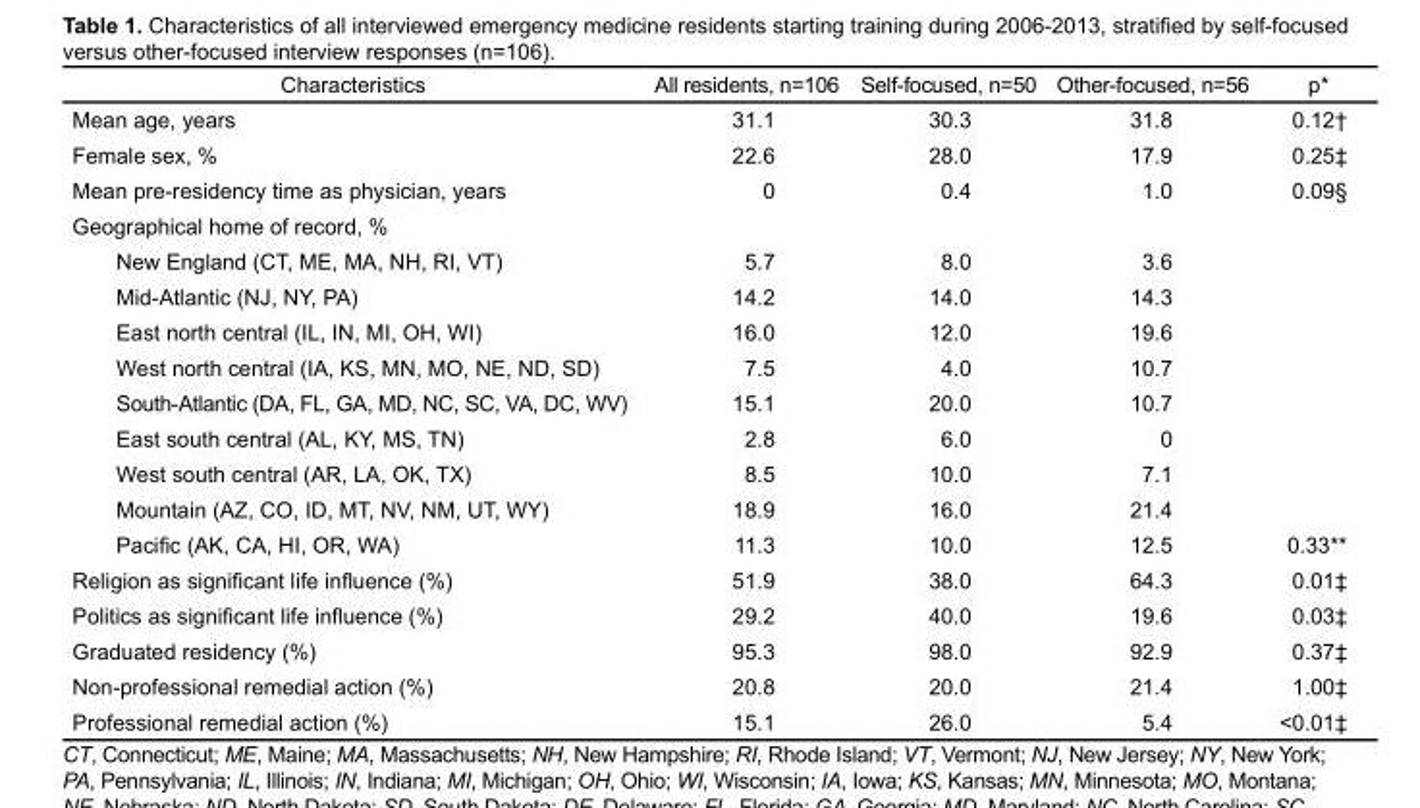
<table><thead><tr><td>Characteristics</td><td>All residents, n=106</td><td>Self-focused, n=50</td><td>Other-focused, n=56</td><td>p*</td></tr></thead><tbody><tr><td>Mean age, years</td><td>31.1</td><td>30.3</td><td>31.8</td><td>0.12†</td></tr><tr><td>Female sex, %</td><td>22.6</td><td>28.0</td><td>17.9</td><td>0.25‡</td></tr><tr><td>Mean pre-residency time as physician, years</td><td>0</td><td>0.4</td><td>1.0</td><td>0.09§</td></tr><tr><td colspan="5">Geographical home of record, %</td></tr><tr><td>New England (CT, ME, MA, NH, RI, VT)</td><td>5.7</td><td>8.0</td><td>3.6</td><td></td></tr><tr><td>Mid-Atlantic (NJ, NY, PA)</td><td>14.2</td><td>14.0</td><td>14.3</td><td></td></tr><tr><td>East north central (IL, IN, MI, OH, WI)</td><td>16.0</td><td>12.0</td><td>19.6</td><td></td></tr><tr><td>West north central (IA, KS, MN, MO, NE, ND, SD)</td><td>7.5</td><td>4.0</td><td>10.7</td><td></td></tr><tr><td>South-Atlantic (DA, FL, GA, MD, NC, SC, VA, DC, WV)</td><td>15.1</td><td>20.0</td><td>10.7</td><td></td></tr><tr><td>East south central (AL, KY, MS, TN)</td><td>2.8</td><td>6.0</td><td>0</td><td></td></tr><tr><td>West south central (AR, LA, OK, TX)</td><td>8.5</td><td>10.0</td><td>7.1</td><td></td></tr><tr><td>Mountain (AZ, CO, ID, MT, NV, NM, UT, WY)</td><td>18.9</td><td>16.0</td><td>21.4</td><td></td></tr><tr><td>Pacific (AK, CA, HI, OR, WA)</td><td>11.3</td><td>10.0</td><td>12.5</td><td>0.33**</td></tr><tr><td>Religion as significant life influence (%)</td><td>51.9</td><td>38.0</td><td>64.3</td><td>0.01‡</td></tr><tr><td>Politics as significant life influence (%)</td><td>29.2</td><td>40.0</td><td>19.6</td><td>0.03‡</td></tr><tr><td>Graduated residency (%)</td><td>95.3</td><td>98.0</td><td>92.9</td><td>0.37‡</td></tr><tr><td>Non-professional remedial action (%)</td><td>20.8</td><td>20.0</td><td>21.4</td><td>1.00‡</td></tr><tr><td>Professional remedial action (%)</td><td>15.1</td><td>26.0</td><td>5.4</td><td>&lt;0.01‡</td></tr></tbody></table>